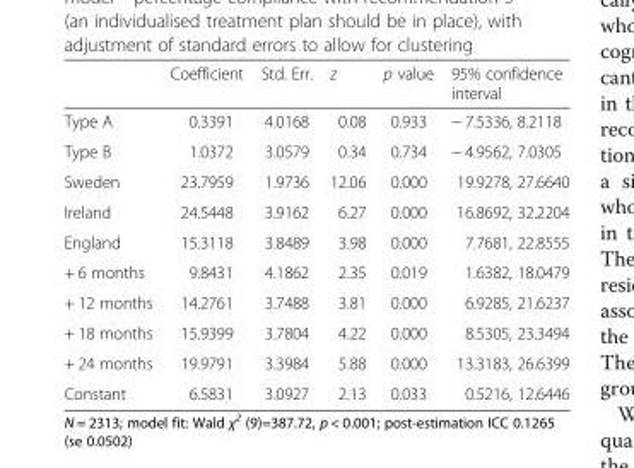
<table><thead><tr><td></td><td>Coefficient</td><td>Std. Err.</td><td>z</td><td>p value</td><td>95% confidence interval</td></tr></thead><tbody><tr><td>Type A</td><td>0.3391</td><td>4.0168</td><td>0.08</td><td>0.933</td><td>− 7.5336, 8.2118</td></tr><tr><td>Type B</td><td>1.0372</td><td>3.0579</td><td>0.34</td><td>0.734</td><td>− 4.9562, 7.0305</td></tr><tr><td>Sweden</td><td>23.7959</td><td>1.9736</td><td>12.06</td><td>0.000</td><td>19.9278, 27.6640</td></tr><tr><td>Ireland</td><td>24.5448</td><td>3.9162</td><td>6.27</td><td>0.000</td><td>16.8692, 32.2204</td></tr><tr><td>England</td><td>15.3118</td><td>3.8489</td><td>3.98</td><td>0.000</td><td>7.7681, 22.8555</td></tr><tr><td>+ 6 months</td><td>9.8431</td><td>4.1862</td><td>2.35</td><td>0.019</td><td>1.6382, 18.0479</td></tr><tr><td>+ 12 months</td><td>14.2761</td><td>3.7488</td><td>3.81</td><td>0.000</td><td>6.9285, 21.6237</td></tr><tr><td>+ 18 months</td><td>15.9399</td><td>3.7804</td><td>4.22</td><td>0.000</td><td>8.5305, 23.3494</td></tr><tr><td>+ 24 months</td><td>19.9791</td><td>3.3984</td><td>5.88</td><td>0.000</td><td>13.3183, 26.6399</td></tr><tr><td>Constant</td><td>6.5831</td><td>3.0927</td><td>2.13</td><td>0.033</td><td>0.5216, 12.6446</td></tr></tbody></table>